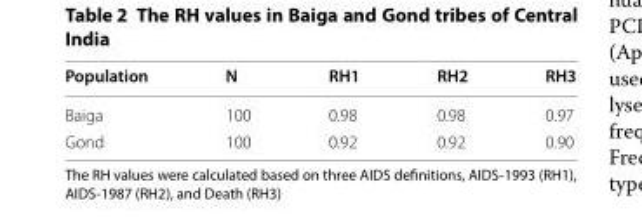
<table><thead><tr><td>Population</td><td>N</td><td>RH1</td><td>RH2</td><td>RH3</td></tr></thead><tbody><tr><td>Baiga</td><td>100</td><td>0.98</td><td>0.98</td><td>0.97</td></tr><tr><td>Gond</td><td>100</td><td>0.92</td><td>0.92</td><td>0.90</td></tr></tbody></table>